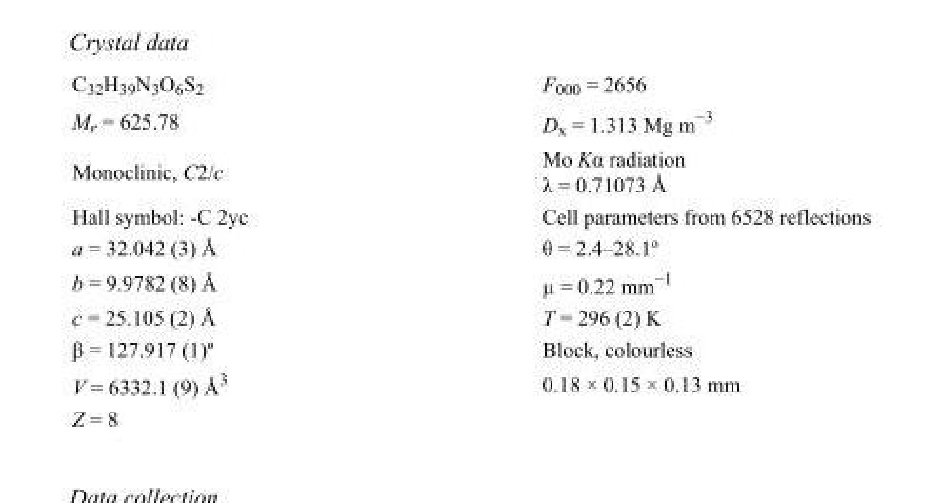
<table><tbody><tr><td>C<sub>32</sub>H<sub>39</sub>N<sub>3</sub>O<sub>6</sub>S<sub>2</sub></td><td>F<sub>000</sub> = 2656</td></tr><tr><td>M<sub>r</sub> = 625.78</td><td>D<sub>x</sub> = 1.313 Mg m<sup>−3</sup></td></tr><tr><td>Monoclinic, C2/c</td><td>Mo Kα radiation λ = 0.71073 Å</td></tr><tr><td>Hall symbol: -C 2yc</td><td>Cell parameters from 6528 reflections</td></tr><tr><td>a = 32.042 (3) Å</td><td>θ = 2.4–28.1º</td></tr><tr><td>b = 9.9782 (8) Å</td><td>µ = 0.22 mm<sup>−1</sup></td></tr><tr><td>c = 25.105 (2) Å</td><td>T = 296 (2) K</td></tr><tr><td>β = 127.917 (1)º</td><td>Block, colourless</td></tr><tr><td>V = 6332.1 (9) Å<sup>3</sup></td><td>0.18 × 0.15 × 0.13 mm</td></tr><tr><td>Z = 8</td><td></td></tr></tbody></table>